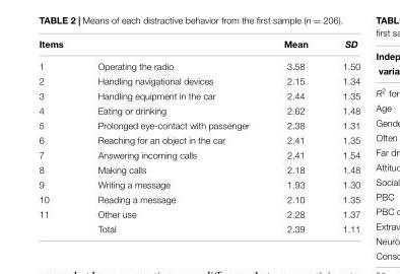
<table><thead><tr><td>Items</td><td></td><td>Mean</td><td>SD</td></tr></thead><tbody><tr><td>1</td><td>Operating the radio</td><td>3.58</td><td>1.50</td></tr><tr><td>2</td><td>Handling navigational devices</td><td>2.15</td><td>1.34</td></tr><tr><td>3</td><td>Handling equipment in the car</td><td>2.44</td><td>1.35</td></tr><tr><td>4</td><td>Eating or drinking</td><td>2.62</td><td>1.48</td></tr><tr><td>5</td><td>Prolonged eye-contact with passenger</td><td>2.38</td><td>1.31</td></tr><tr><td>6</td><td>Reaching for an object in the car</td><td>2.41</td><td>1.35</td></tr><tr><td>7</td><td>Answering incoming calls</td><td>2.41</td><td>1.54</td></tr><tr><td>8</td><td>Making calls</td><td>2.18</td><td>1.48</td></tr><tr><td>9</td><td>Writing a message</td><td>1.93</td><td>1.30</td></tr><tr><td>10</td><td>Reading a message</td><td>2.10</td><td>1.35</td></tr><tr><td rowspan="2">11</td><td>Other use</td><td>2.28</td><td>1.37</td></tr><tr><td>Total</td><td>2.39</td><td>1.11</td></tr></tbody></table>